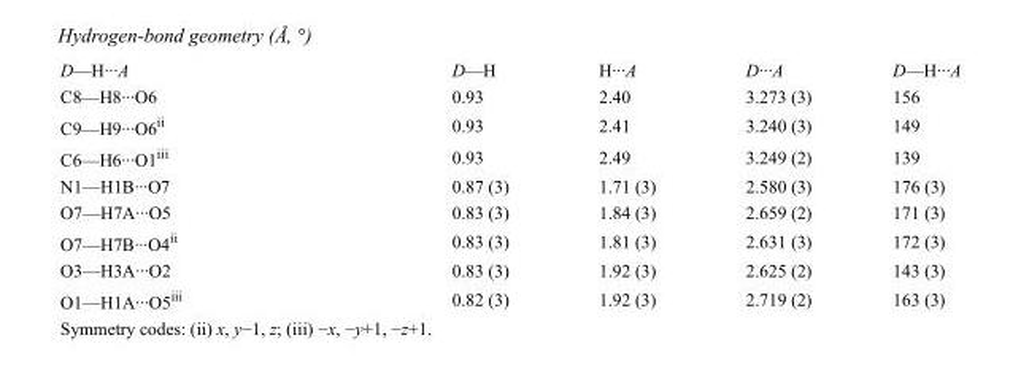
<table><tbody><tr><td>D—H···A</td><td>D—H</td><td>H···A</td><td>D···A</td><td>D—H···A</td></tr><tr><td>C8—H8···O6</td><td>0.93</td><td>2.40</td><td>3.273 (3)</td><td>156</td></tr><tr><td>C9—H9···O6<sup>ii</sup></td><td>0.93</td><td>2.41</td><td>3.240 (3)</td><td>149</td></tr><tr><td>C6—H6···O1<sup>iii</sup></td><td>0.93</td><td>2.49</td><td>3.249 (2)</td><td>139</td></tr><tr><td>N1—H1B···O7</td><td>0.87 (3)</td><td>1.71 (3)</td><td>2.580 (3)</td><td>176 (3)</td></tr><tr><td>O7—H7A···O5</td><td>0.83 (3)</td><td>1.84 (3)</td><td>2.659 (2)</td><td>171 (3)</td></tr><tr><td>O7—H7B···O4<sup>ii</sup></td><td>0.83 (3)</td><td>1.81 (3)</td><td>2.631 (3)</td><td>172 (3)</td></tr><tr><td>O3—H3A···O2</td><td>0.83 (3)</td><td>1.92 (3)</td><td>2.625 (2)</td><td>143 (3)</td></tr><tr><td>O1—H1A···O5<sup>iii</sup></td><td>0.82 (3)</td><td>1.92 (3)</td><td>2.719 (2)</td><td>163 (3)</td></tr></tbody></table>